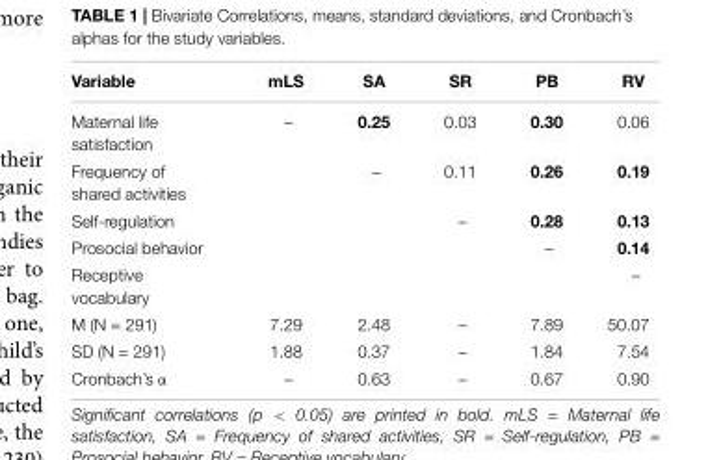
<table><thead><tr><td>Variable</td><td>mLS</td><td>SA</td><td>SR</td><td>PB</td><td>RV</td></tr></thead><tbody><tr><td>Maternal life satisfaction</td><td>–</td><td>0.25</td><td>0.03</td><td>0.30</td><td>0.06</td></tr><tr><td>Frequency of shared activities</td><td></td><td>–</td><td>0.11</td><td>0.26</td><td>0.19</td></tr><tr><td>Self-regulation</td><td></td><td></td><td>–</td><td>0.28</td><td>0.13</td></tr><tr><td>Prosocial behavior</td><td></td><td></td><td></td><td>–</td><td>0.14</td></tr><tr><td>Receptive vocabulary</td><td></td><td></td><td></td><td></td><td>–</td></tr><tr><td>M (N = 291)</td><td>7.29</td><td>2.48</td><td>–</td><td>7.89</td><td>50.07</td></tr><tr><td>SD (N = 291)</td><td>1.88</td><td>0.37</td><td>–</td><td>1.84</td><td>7.54</td></tr><tr><td>Cronbach’s α</td><td>–</td><td>0.63</td><td>–</td><td>0.67</td><td>0.90</td></tr></tbody></table>